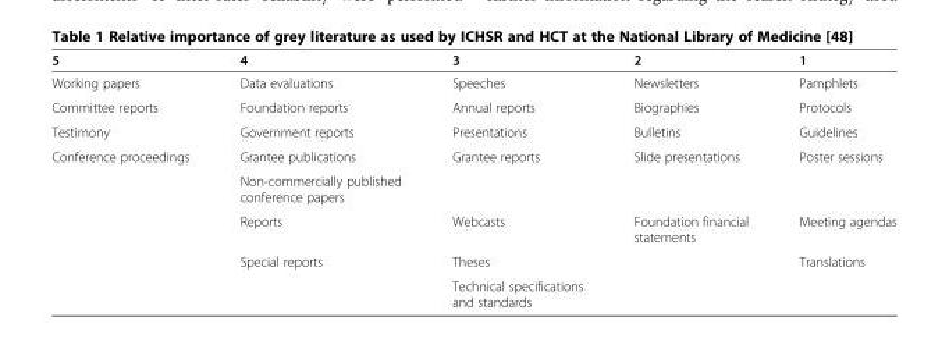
<table><thead><tr><td>5</td><td>4</td><td>3</td><td>2</td><td>1</td></tr></thead><tbody><tr><td>Working papers</td><td>Data evaluations</td><td>Speeches</td><td>Newsletters</td><td>Pamphlets</td></tr><tr><td>Committee reports</td><td>Foundation reports</td><td>Annual reports</td><td>Biographies</td><td>Protocols</td></tr><tr><td>Testimony</td><td>Government reports</td><td>Presentations</td><td>Bulletins</td><td>Guidelines</td></tr><tr><td rowspan="5">Conference proceedings</td><td>Grantee publications</td><td>Grantee reports</td><td>Slide presentations</td><td>Poster sessions</td></tr><tr><td>Non-commercially published conference papers</td><td></td><td></td><td></td></tr><tr><td>Reports</td><td>Webcasts</td><td>Foundation financial statements</td><td>Meeting agendas</td></tr><tr><td>Special reports</td><td>Theses</td><td></td><td>Translations</td></tr><tr><td></td><td>Technical specifications and standards</td><td></td><td></td></tr></tbody></table>